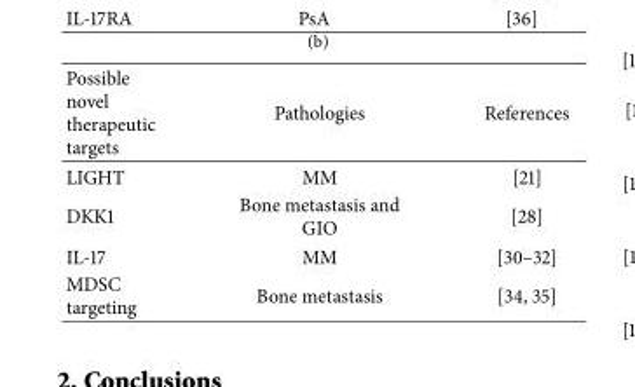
<table><thead><tr><td>Possible novel therapeutic targets</td><td>Pathologies</td><td>References</td></tr></thead><tbody><tr><td>LIGHT</td><td>MM</td><td>[21]</td></tr><tr><td>DKK1</td><td>Bone metastasis and GIO</td><td>[28]</td></tr><tr><td>IL-17</td><td>MM</td><td>[30–32]</td></tr><tr><td>MDSC targeting</td><td>Bone metastasis</td><td>[34, 35]</td></tr></tbody></table>